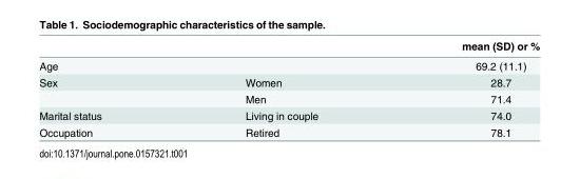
<table><thead><tr><td></td><td></td><td>mean (SD) or %</td></tr></thead><tbody><tr><td>Age</td><td></td><td>69.2 (11.1)</td></tr><tr><td rowspan="2">Sex</td><td>Women</td><td>28.7</td></tr><tr><td>Men</td><td>71.4</td></tr><tr><td>Marital status</td><td>Living in couple</td><td>74.0</td></tr><tr><td>Occupation</td><td>Retired</td><td>78.1</td></tr></tbody></table>